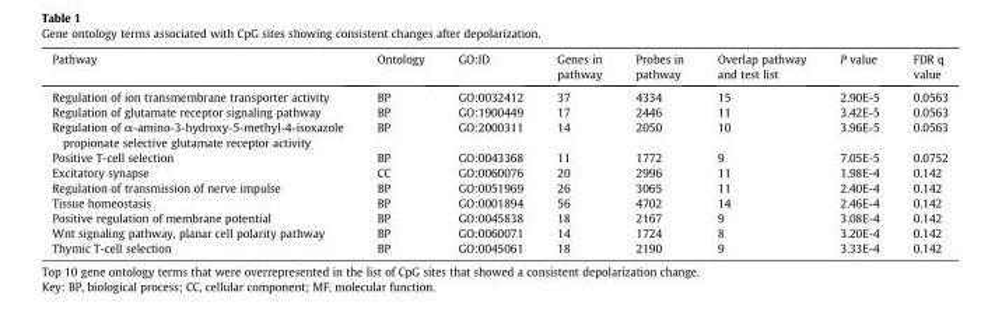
<table><thead><tr><td>Pathway</td><td>Ontology</td><td>GO:ID</td><td>Genes in pathway</td><td>Probes in pathway</td><td>Overlap pathway and test list</td><td>P value</td><td>FDR q value</td></tr></thead><tbody><tr><td>Regulation of ion transmembrane transporter activity</td><td>BP</td><td>GO:0032412</td><td>37</td><td>4334</td><td>15</td><td>2.90E-5</td><td>0.0563</td></tr><tr><td>Regulation of glutamate receptor signaling pathway</td><td>BP</td><td>GO:1900449</td><td>17</td><td>2446</td><td>11</td><td>3.42E-5</td><td>0.0563</td></tr><tr><td>Regulation of α-amino-3-hydroxy-5-methyl-4-isoxazole propionate selective glutamate receptor activity</td><td>BP</td><td>GO:2000311</td><td>14</td><td>2050</td><td>10</td><td>3.96E-5</td><td>0.0563</td></tr><tr><td>Positive T-cell selection</td><td>BP</td><td>GO:0043368</td><td>11</td><td>1772</td><td>9</td><td>7.05E-5</td><td>0.0752</td></tr><tr><td>Excitatory synapse</td><td>CC</td><td>GO:0060076</td><td>20</td><td>2996</td><td>11</td><td>1.98E-4</td><td>0.142</td></tr><tr><td>Regulation of transmission of nerve impulse</td><td>BP</td><td>GO:0051969</td><td>26</td><td>3065</td><td>11</td><td>2.40E-4</td><td>0.142</td></tr><tr><td>Tissue homeostasis</td><td>BP</td><td>GO:0001894</td><td>56</td><td>4702</td><td>14</td><td>2.46E-4</td><td>0.142</td></tr><tr><td>Positive regulation of membrane potential</td><td>BP</td><td>GO:0045838</td><td>18</td><td>2167</td><td>9</td><td>3.08E-4</td><td>0.142</td></tr><tr><td>Wnt signaling pathway, planar cell polarity pathway</td><td>BP</td><td>GO:0060071</td><td>14</td><td>1724</td><td>8</td><td>3.20E-4</td><td>0.142</td></tr><tr><td>Thymic T-cell selection</td><td>BP</td><td>GO:0045061</td><td>18</td><td>2190</td><td>9</td><td>3.33E-4</td><td>0.142</td></tr></tbody></table>